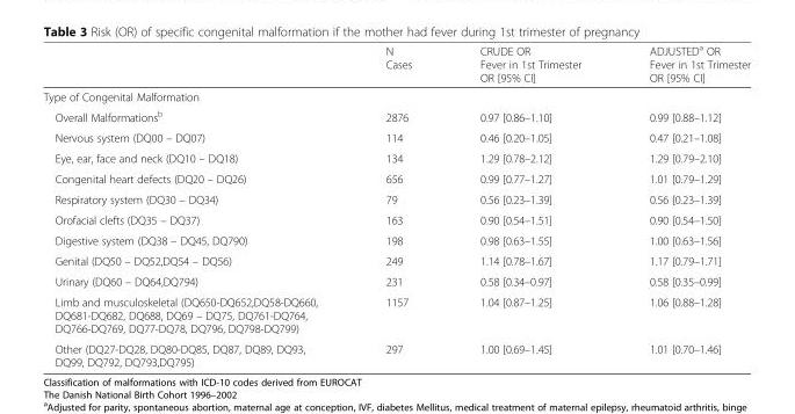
<table><thead><tr><td></td><td>N Cases</td><td>CRUDE OR Fever in 1st Trimester OR [95% CI]</td><td>ADJUSTED<sup>a</sup> OR Fever in 1st Trimester OR [95% CI]</td></tr></thead><tbody><tr><td colspan="4">Type of Congenital Malformation</td></tr><tr><td>Overall Malformations<sup>b</sup></td><td>2876</td><td>0.97 [0.86–1.10]</td><td>0.99 [0.88–1.12]</td></tr><tr><td>Nervous system (DQ00 – DQ07)</td><td>114</td><td>0.46 [0.20–1.05]</td><td>0.47 [0.21–1.08]</td></tr><tr><td>Eye, ear, face and neck (DQ10 – DQ18)</td><td>134</td><td>1.29 [0.78–2.12]</td><td>1.29 [0.79–2.10]</td></tr><tr><td>Congenital heart defects (DQ20 – DQ26)</td><td>656</td><td>0.99 [0.77–1.27]</td><td>1.01 [0.79–1.29]</td></tr><tr><td>Respiratory system (DQ30 – DQ34)</td><td>79</td><td>0.56 [0.23–1.39]</td><td>0.56 [0.23–1.39]</td></tr><tr><td>Orofacial clefts (DQ35 – DQ37)</td><td>163</td><td>0.90 [0.54–1.51]</td><td>0.90 [0.54–1.50]</td></tr><tr><td>Digestive system (DQ38 – DQ45, DQ790)</td><td>198</td><td>0.98 [0.63–1.55]</td><td>1.00 [0.63–1.56]</td></tr><tr><td>Genital (DQ50 – DQ52,DQ54 – DQ56)</td><td>249</td><td>1.14 [0.78–1.67]</td><td>1.17 [0.79–1.71]</td></tr><tr><td>Urinary (DQ60 – DQ64,DQ794)</td><td>231</td><td>0.58 [0.34–0.97]</td><td>0.58 [0.35–0.99]</td></tr><tr><td>Limb and musculoskeletal (DQ650-DQ652,DQ58-DQ660, DQ681-DQ682, DQ688, DQ69 – DQ75, DQ761-DQ764, DQ766-DQ769, DQ77-DQ78, DQ796, DQ798-DQ799)</td><td>1157</td><td>1.04 [0.87–1.25]</td><td>1.06 [0.88–1.28]</td></tr><tr><td>Other (DQ27-DQ28, DQ80-DQ85, DQ87, DQ89, DQ93, DQ99, DQ792, DQ793,DQ795)</td><td>297</td><td>1.00 [0.69–1.45]</td><td>1.01 [0.70–1.46]</td></tr></tbody></table>